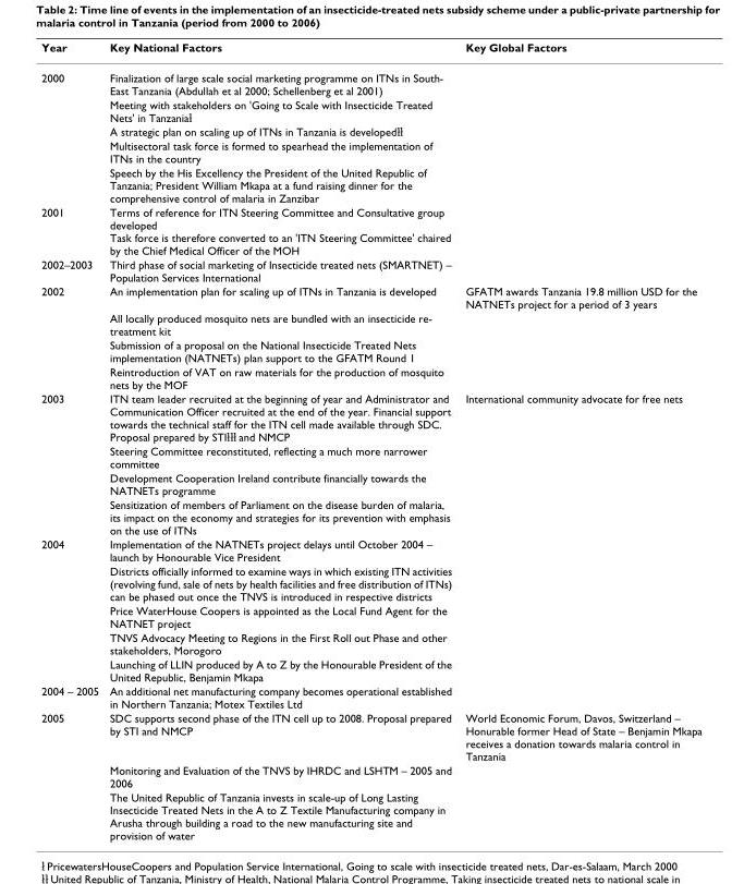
<table><thead><tr><td>Year</td><td>Key National Factors</td><td>Key Global Factors</td></tr></thead><tbody><tr><td rowspan="5">2000</td><td>Finalization of large scale social marketing programme on ITNs in South- East Tanzania (Abdullah et al 2000; Schellenberg et al 2001)</td><td></td></tr><tr><td>Meeting with stakeholders on &#x27;Going to Scale with Insecticide Treated Nets&#x27; in Tanzania<sup>ł</sup></td><td></td></tr><tr><td>A strategic plan on scaling up of ITNs in Tanzania is developed<sup>łł</sup></td><td></td></tr><tr><td>Multisectoral task force is formed to spearhead the implementation of ITNs in the country</td><td></td></tr><tr><td>Speech by the His Excellency the President of the United Republic of Tanzania; President William Mkapa at a fund raising dinner for the comprehensive control of malaria in Zanzibar</td><td></td></tr><tr><td>2001</td><td>Terms of reference for ITN Steering Committee and Consultative group developed Task force is therefore converted to an &#x27;ITN Steering Committee&#x27; chaired by the Chief Medical Officer of the MOH</td><td></td></tr><tr><td>2002–2003</td><td>Third phase of social marketing of Insecticide treated nets (SMARTNET) – Population Services International</td><td></td></tr><tr><td rowspan="4">2002</td><td>An implementation plan for scaling up of ITNs in Tanzania is developed</td><td>GFATM awards Tanzania 19.8 million USD for the NATNETs project for a period of 3 years</td></tr><tr><td>All locally produced mosquito nets are bundled with an insecticide re- treatment kit</td><td></td></tr><tr><td>Submission of a proposal on the National Insecticide Treated Nets implementation (NATNETs) plan support to the GFATM Round 1</td><td></td></tr><tr><td>Reintroduction of VAT on raw materials for the production of mosquito nets by the MOF</td><td></td></tr><tr><td rowspan="4">2003</td><td>ITN team leader recruited at the beginning of year and Administrator and Communication Officer recruited at the end of the year. Financial support towards the technical staff for the ITN cell made available through SDC. Proposal prepared by STI<sup>łłł</sup> and NMCP</td><td>International community advocate for free nets</td></tr><tr><td>Steering Committee reconstituted, reflecting a much more narrower committee</td><td></td></tr><tr><td>Development Cooperation Ireland contribute financially towards the NATNETs programme</td><td></td></tr><tr><td>Sensitization of members of Parliament on the disease burden of malaria, its impact on the economy and strategies for its prevention with emphasis on the use of ITNs</td><td></td></tr><tr><td rowspan="5">2004</td><td>Implementation of the NATNETs project delays until October 2004 – launch by Honourable Vice President</td><td></td></tr><tr><td>Districts officially informed to examine ways in which existing ITN activities (revolving fund, sale of nets by health facilities and free distribution of ITNs) can be phased out once the TNVS is introduced in respective districts</td><td></td></tr><tr><td>Price WaterHouse Coopers is appointed as the Local Fund Agent for the NATNET project</td><td></td></tr><tr><td>TNVS Advocacy Meeting to Regions in the First Roll out Phase and other stakeholders, Morogoro</td><td></td></tr><tr><td>Launching of LLIN produced by A to Z by the Honourable President of the United Republic, Benjamin Mkapa</td><td></td></tr><tr><td>2004 – 2005</td><td>An additional net manufacturing company becomes operational established in Northern Tanzania; Motex Textiles Ltd</td><td></td></tr><tr><td rowspan="3">2005</td><td>SDC supports second phase of the ITN cell up to 2008. Proposal prepared by STI and NMCP</td><td>World Economic Forum, Davos, Switzerland – Honurable former Head of State – Benjamin Mkapa receives a donation towards malaria control in Tanzania</td></tr><tr><td>Monitoring and Evaluation of the TNVS by IHRDC and LSHTM – 2005 and 2006</td><td></td></tr><tr><td>The United Republic of Tanzania invests in scale-up of Long Lasting Insecticide Treated Nets in the A to Z Textile Manufacturing company in Arusha through building a road to the new manufacturing site and provision of water</td><td></td></tr></tbody></table>